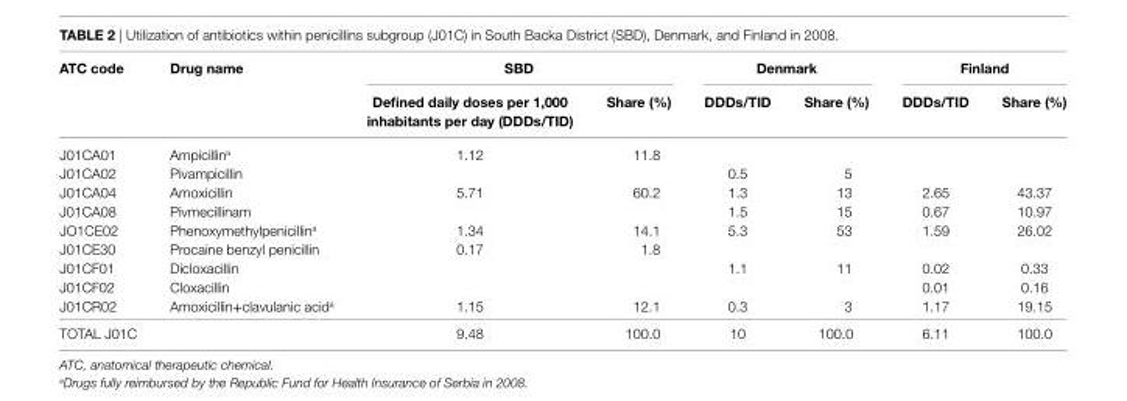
<table><thead><tr><td rowspan="2">aTc code</td><td rowspan="2">Drug name</td><td colspan="2">sBD</td><td colspan="2">Denmark</td><td colspan="2">Finland</td></tr><tr><td>Defined daily doses per 1,000 inhabitants per day (DDDs/TiD)</td><td>share (%)</td><td>DDDs/TiD</td><td>share (%)</td><td>DDDs/TiD</td><td>share (%)</td></tr></thead><tbody><tr><td>J01CA01</td><td>Ampicillin<sup>a</sup></td><td>1.12</td><td>11.8</td><td></td><td></td><td></td><td></td></tr><tr><td>J01CA02</td><td>Pivampicillin</td><td></td><td></td><td>0.5</td><td>5</td><td></td><td></td></tr><tr><td>J01CA04</td><td>Amoxicillin</td><td>5.71</td><td>60.2</td><td>1.3</td><td>13</td><td>2.65</td><td>43.37</td></tr><tr><td>J01CA08</td><td>Pivmecillinam</td><td></td><td></td><td>1.5</td><td>15</td><td>0.67</td><td>10.97</td></tr><tr><td>JO1CE02</td><td>Phenoxymethylpenicillin<sup>a</sup></td><td>1.34</td><td>14.1</td><td>5.3</td><td>53</td><td>1.59</td><td>26.02</td></tr><tr><td>J01CE30</td><td>Procaine benzyl penicillin</td><td>0.17</td><td>1.8</td><td></td><td></td><td></td><td></td></tr><tr><td>J01CF01</td><td>Dicloxacillin</td><td></td><td></td><td>1.1</td><td>11</td><td>0.02</td><td>0.33</td></tr><tr><td>J01CF02</td><td>Cloxacillin</td><td></td><td></td><td></td><td></td><td>0.01</td><td>0.16</td></tr><tr><td>J01CR02</td><td>Amoxicillin+clavulanic acid<sup>a</sup></td><td>1.15</td><td>12.1</td><td>0.3</td><td>3</td><td>1.17</td><td>19.15</td></tr><tr><td>TOTAL J01C</td><td></td><td>9.48</td><td>100.0</td><td>10</td><td>100.0</td><td>6.11</td><td>100.0</td></tr></tbody></table>